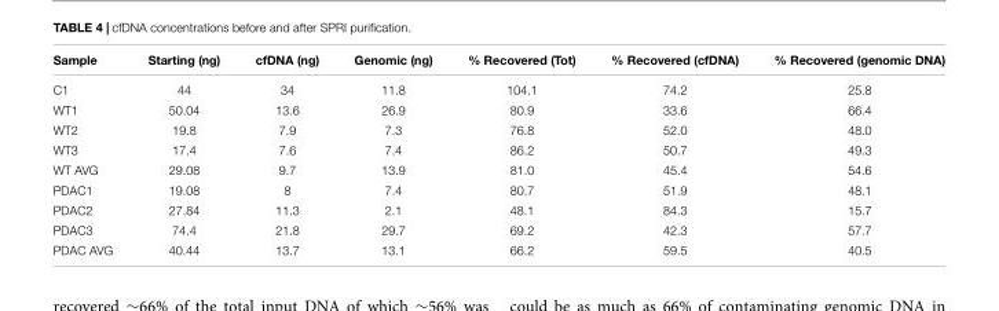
<table><thead><tr><td>Sample</td><td>Starting (ng)</td><td>cfDNA (ng)</td><td>Genomic (ng)</td><td>% Recovered (Tot)</td><td>% Recovered (cfDNA)</td><td>% Recovered (genomic DNA)</td></tr></thead><tbody><tr><td>C1</td><td>44</td><td>34</td><td>11.8</td><td>104.1</td><td>74.2</td><td>25.8</td></tr><tr><td>WT1</td><td>50.04</td><td>13.6</td><td>26.9</td><td>80.9</td><td>33.6</td><td>66.4</td></tr><tr><td>WT2</td><td>19.8</td><td>7.9</td><td>7.3</td><td>76.8</td><td>52.0</td><td>48.0</td></tr><tr><td>WT3</td><td>17.4</td><td>7.6</td><td>7.4</td><td>86.2</td><td>50.7</td><td>49.3</td></tr><tr><td>WT AVG</td><td>29.08</td><td>9.7</td><td>13.9</td><td>81.0</td><td>45.4</td><td>54.6</td></tr><tr><td>PDAC1</td><td>19.08</td><td>8</td><td>7.4</td><td>80.7</td><td>51.9</td><td>48.1</td></tr><tr><td>PDAC2</td><td>27.84</td><td>11.3</td><td>2.1</td><td>48.1</td><td>84.3</td><td>15.7</td></tr><tr><td>PDAC3</td><td>74.4</td><td>21.8</td><td>29.7</td><td>69.2</td><td>42.3</td><td>57.7</td></tr><tr><td>PDAC AVG</td><td>40.44</td><td>13.7</td><td>13.1</td><td>66.2</td><td>59.5</td><td>40.5</td></tr></tbody></table>